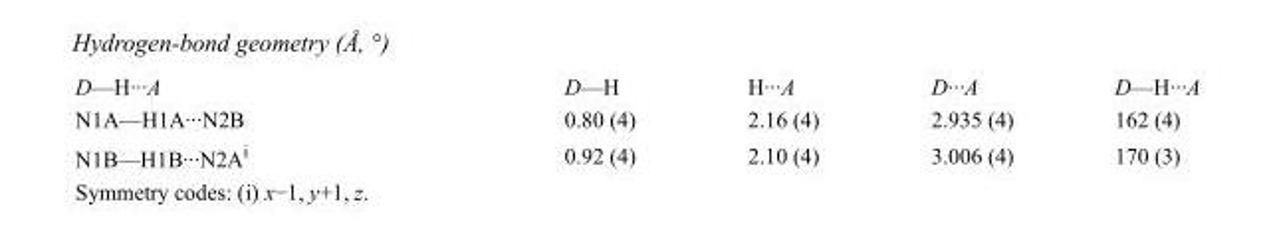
<table><tbody><tr><td>D—H···A</td><td>D—H</td><td>H···A</td><td>D···A</td><td>D—H···A</td></tr><tr><td>N1A—H1A···N2B</td><td>0.80 (4)</td><td>2.16 (4)</td><td>2.935 (4)</td><td>162 (4)</td></tr><tr><td>N1B—H1B···N2A<sup>i</sup></td><td>0.92 (4)</td><td>2.10 (4)</td><td>3.006 (4)</td><td>170 (3)</td></tr></tbody></table>